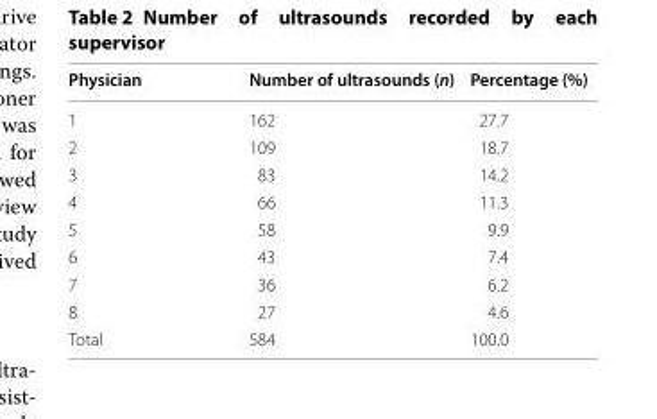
<table><thead><tr><td>Physician</td><td>Number of ultrasounds (n)</td><td>Percentage (%)</td></tr></thead><tbody><tr><td>1</td><td>162</td><td>27.7</td></tr><tr><td>2</td><td>109</td><td>18.7</td></tr><tr><td>3</td><td>83</td><td>14.2</td></tr><tr><td>4</td><td>66</td><td>11.3</td></tr><tr><td>5</td><td>58</td><td>9.9</td></tr><tr><td>6</td><td>43</td><td>7.4</td></tr><tr><td>7</td><td>36</td><td>6.2</td></tr><tr><td>8</td><td>27</td><td>4.6</td></tr><tr><td>Total</td><td>584</td><td>100.0</td></tr></tbody></table>